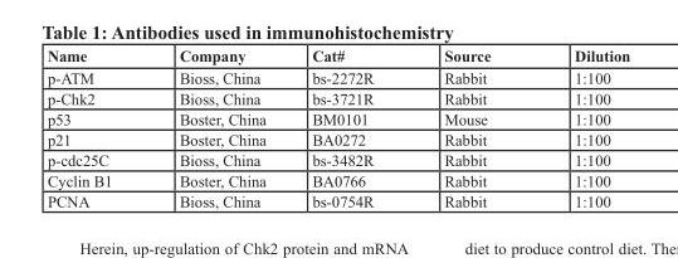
<table><thead><tr><td>Name</td><td>Company</td><td>Cat#</td><td>Source</td><td>Dilution</td></tr></thead><tbody><tr><td>p-ATM</td><td>Bioss, China</td><td>bs-2272R</td><td>Rabbit</td><td>1:100</td></tr><tr><td>p-Chk2</td><td>Bioss, China</td><td>bs-3721R</td><td>Rabbit</td><td>1:100</td></tr><tr><td>p53</td><td>Boster, China</td><td>BM0101</td><td>Mouse</td><td>1:100</td></tr><tr><td>p21</td><td>Boster, China</td><td>BA0272</td><td>Rabbit</td><td>1:100</td></tr><tr><td>p-cdc25C</td><td>Bioss, China</td><td>bs-3482R</td><td>Rabbit</td><td>1:100</td></tr><tr><td>Cyclin B1</td><td>Boster, China</td><td>BA0766</td><td>Rabbit</td><td>1:100</td></tr><tr><td>PCNA</td><td>Bioss, China</td><td>bs-0754R</td><td>Rabbit</td><td>1:100</td></tr></tbody></table>